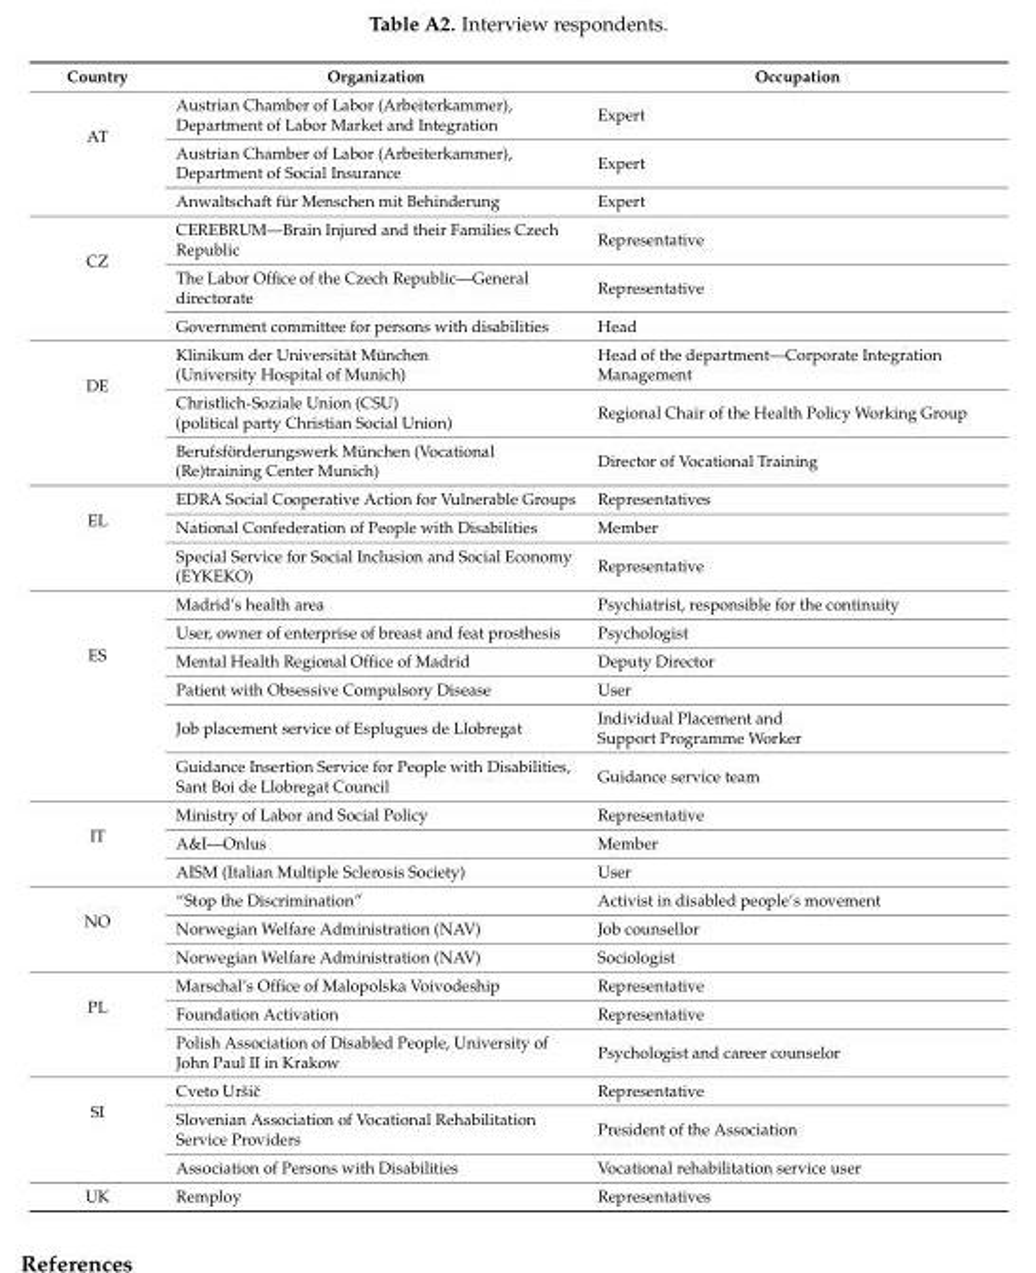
<table><thead><tr><td>Country</td><td>Organization</td><td>Occupation</td></tr></thead><tbody><tr><td rowspan="3">AT</td><td>Austrian Chamber of Labor (Arbeiterkammer), Department of Labor Market and Integration</td><td>Expert</td></tr><tr><td>Austrian Chamber of Labor (Arbeiterkammer), Department of Social Insurance</td><td>Expert</td></tr><tr><td>Anwaltschaft für Menschen mit Behinderung</td><td>Expert</td></tr><tr><td rowspan="3">CZ</td><td>CEREBRUM—Brain Injured and their Families Czech Republic</td><td>Representative</td></tr><tr><td>The Labor Office of the Czech Republic—General directorate</td><td>Representative</td></tr><tr><td>Government committee for persons with disabilities</td><td>Head</td></tr><tr><td rowspan="3">DE</td><td>Klinikum der Universität München (University Hospital of Munich)</td><td>Head of the department—Corporate Integration Management</td></tr><tr><td>Christlich-Soziale Union (CSU) (political party Christian Social Union)</td><td>Regional Chair of the Health Policy Working Group</td></tr><tr><td>Berufsförderungswerk München (Vocational (Re)training Center Munich)</td><td>Director of Vocational Training</td></tr><tr><td rowspan="3">EL</td><td>EDRA Social Cooperative Action for Vulnerable Groups</td><td>Representatives</td></tr><tr><td>National Confederation of People with Disabilities</td><td>Member</td></tr><tr><td>Special Service for Social Inclusion and Social Economy (EYKEKO)</td><td>Representative</td></tr><tr><td rowspan="6">ES</td><td>Madrid’s health area</td><td>Psychiatrist, responsible for the continuity</td></tr><tr><td>User, owner of enterprise of breast and feat prosthesis</td><td>Psychologist</td></tr><tr><td>Mental Health Regional Office of Madrid</td><td>Deputy Director</td></tr><tr><td>Patient with Obsessive Compulsory Disease</td><td>User</td></tr><tr><td>Job placement service of Esplugues de Llobregat</td><td>Individual Placement and Support Programme Worker</td></tr><tr><td>Guidance Insertion Service for People with Disabilities, Sant Boi de Llobregat Council</td><td>Guidance service team</td></tr><tr><td rowspan="3">IT</td><td>Ministry of Labor and Social Policy</td><td>Representative</td></tr><tr><td>A&amp;I—Onlus</td><td>Member</td></tr><tr><td>AISM (Italian Multiple Sclerosis Society)</td><td>User</td></tr><tr><td rowspan="3">NO</td><td>“Stop the Discrimination”</td><td>Activist in disabled people’s movement</td></tr><tr><td>Norwegian Welfare Administration (NAV)</td><td>Job counsellor</td></tr><tr><td>Norwegian Welfare Administration (NAV)</td><td>Sociologist</td></tr><tr><td rowspan="3">PL</td><td>Marschal’s Office of Malopolska Voivodeship</td><td>Representative</td></tr><tr><td>Foundation Activation</td><td>Representative</td></tr><tr><td>Polish Association of Disabled People, University of John Paul II in Krakow</td><td>Psychologist and career counselor</td></tr><tr><td rowspan="3">SI</td><td>Cveto Uršiˇc</td><td>Representative</td></tr><tr><td>Slovenian Association of Vocational Rehabilitation Service Providers</td><td>President of the Association</td></tr><tr><td>Association of Persons with Disabilities</td><td>Vocational rehabilitation service user</td></tr><tr><td>UK</td><td>Remploy</td><td>Representatives</td></tr></tbody></table>